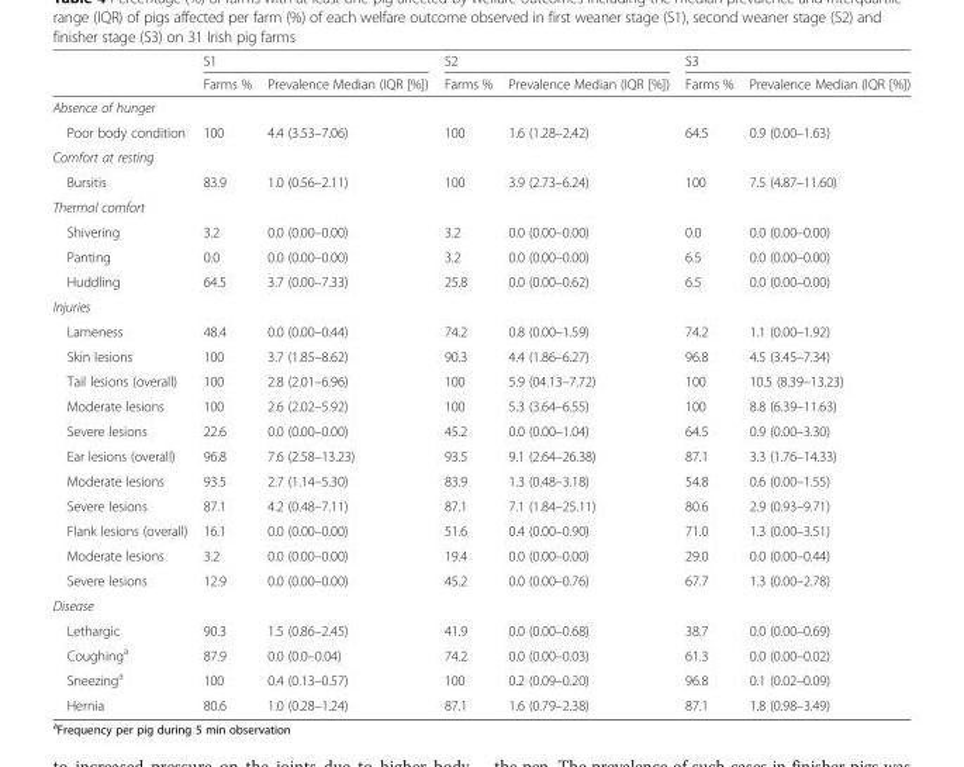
<table><thead><tr><td rowspan="2"></td><td colspan="2">S1</td><td colspan="2">S2</td><td colspan="2">S3</td></tr><tr><td>Farms %</td><td>Prevalence Median (IQR [%])</td><td>Farms %</td><td>Prevalence Median (IQR [%])</td><td>Farms %</td><td>Prevalence Median (IQR [%])</td></tr></thead><tbody><tr><td colspan="7">Absence of hunger</td></tr><tr><td>Poor body condition</td><td>100</td><td>4.4 (3.53–7.06)</td><td>100</td><td>1.6 (1.28–2.42)</td><td>64.5</td><td>0.9 (0.00–1.63)</td></tr><tr><td colspan="7">Comfort at resting</td></tr><tr><td>Bursitis</td><td>83.9</td><td>1.0 (0.56–2.11)</td><td>100</td><td>3.9 (2.73–6.24)</td><td>100</td><td>7.5 (4.87–11.60)</td></tr><tr><td colspan="7">Thermal comfort</td></tr><tr><td>Shivering</td><td>3.2</td><td>0.0 (0.00–0.00)</td><td>3.2</td><td>0.0 (0.00–0.00)</td><td>0.0</td><td>0.0 (0.00–0.00)</td></tr><tr><td>Panting</td><td>0.0</td><td>0.0 (0.00–0.00)</td><td>3.2</td><td>0.0 (0.00–0.00)</td><td>6.5</td><td>0.0 (0.00–0.00)</td></tr><tr><td>Huddling</td><td>64.5</td><td>3.7 (0.00–7.33)</td><td>25.8</td><td>0.0 (0.00–0.62)</td><td>6.5</td><td>0.0 (0.00–0.00)</td></tr><tr><td colspan="7">Injuries</td></tr><tr><td>Lameness</td><td>48.4</td><td>0.0 (0.00–0.44)</td><td>74.2</td><td>0.8 (0.00–1.59)</td><td>74.2</td><td>1.1 (0.00–1.92)</td></tr><tr><td>Skin lesions</td><td>100</td><td>3.7 (1.85–8.62)</td><td>90.3</td><td>4.4 (1.86–6.27)</td><td>96.8</td><td>4.5 (3.45–7.34)</td></tr><tr><td>Tail lesions (overall)</td><td>100</td><td>2.8 (2.01–6.96)</td><td>100</td><td>5.9 (04.13–7.72)</td><td>100</td><td>10.5 (8.39–13.23)</td></tr><tr><td>Moderate lesions</td><td>100</td><td>2.6 (2.02–5.92)</td><td>100</td><td>5.3 (3.64–6.55)</td><td>100</td><td>8.8 (6.39–11.63)</td></tr><tr><td>Severe lesions</td><td>22.6</td><td>0.0 (0.00–0.00)</td><td>45.2</td><td>0.0 (0.00–1.04)</td><td>64.5</td><td>0.9 (0.00–3.30)</td></tr><tr><td>Ear lesions (overall)</td><td>96.8</td><td>7.6 (2.58–13.23)</td><td>93.5</td><td>9.1 (2.64–26.38)</td><td>87.1</td><td>3.3 (1.76–14.33)</td></tr><tr><td>Moderate lesions</td><td>93.5</td><td>2.7 (1.14–5.30)</td><td>83.9</td><td>1.3 (0.48–3.18)</td><td>54.8</td><td>0.6 (0.00–1.55)</td></tr><tr><td>Severe lesions</td><td>87.1</td><td>4.2 (0.48–7.11)</td><td>87.1</td><td>7.1 (1.84–25.11)</td><td>80.6</td><td>2.9 (0.93–9.71)</td></tr><tr><td>Flank lesions (overall)</td><td>16.1</td><td>0.0 (0.00–0.00)</td><td>51.6</td><td>0.4 (0.00–0.90)</td><td>71.0</td><td>1.3 (0.00–3.51)</td></tr><tr><td>Moderate lesions</td><td>3.2</td><td>0.0 (0.00–0.00)</td><td>19.4</td><td>0.0 (0.00–0.00)</td><td>29.0</td><td>0.0 (0.00–0.44)</td></tr><tr><td>Severe lesions</td><td>12.9</td><td>0.0 (0.00–0.00)</td><td>45.2</td><td>0.0 (0.00–0.76)</td><td>67.7</td><td>1.3 (0.00–2.78)</td></tr><tr><td colspan="7">Disease</td></tr><tr><td>Lethargic</td><td>90.3</td><td>1.5 (0.86–2.45)</td><td>41.9</td><td>0.0 (0.00–0.68)</td><td>38.7</td><td>0.0 (0.00–0.69)</td></tr><tr><td>Coughing<sup>a</sup></td><td>87.9</td><td>0.0 (0.0–0.04)</td><td>74.2</td><td>0.0 (0.00–0.03)</td><td>61.3</td><td>0.0 (0.00–0.02)</td></tr><tr><td>Sneezing<sup>a</sup></td><td>100</td><td>0.4 (0.13–0.57)</td><td>100</td><td>0.2 (0.09–0.20)</td><td>96.8</td><td>0.1 (0.02–0.09)</td></tr><tr><td>Hernia</td><td>80.6</td><td>1.0 (0.28–1.24)</td><td>87.1</td><td>1.6 (0.79–2.38)</td><td>87.1</td><td>1.8 (0.98–3.49)</td></tr></tbody></table>